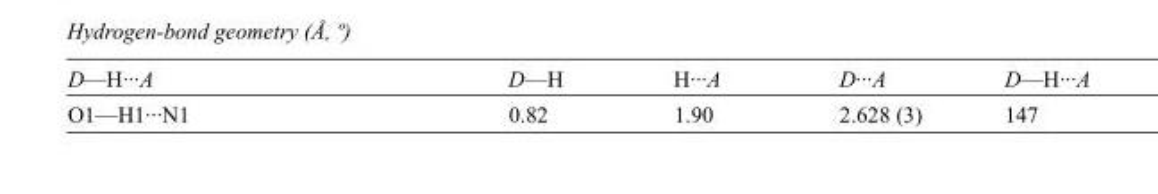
<table><tbody><tr><td>D—H···A</td><td>D—H</td><td>H···A</td><td>D···A</td><td>D—H···A</td></tr><tr><td>O1—H1···N1</td><td>0.82</td><td>1.90</td><td>2.628 (3)</td><td>147</td></tr></tbody></table>